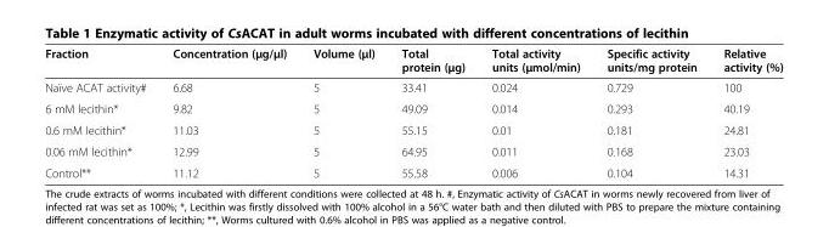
<table><thead><tr><td>Fraction</td><td>Concentration (μg/μl)</td><td>Volume (μl)</td><td>Total protein (μg)</td><td>Total activity units (μmol/min)</td><td>Specific activity units/mg protein</td><td>Relative activity (%)</td></tr></thead><tbody><tr><td>Naïve ACAT activity#</td><td>6.68</td><td>5</td><td>33.41</td><td>0.024</td><td>0.729</td><td>100</td></tr><tr><td>6 mM lecithin*</td><td>9.82</td><td>5</td><td>49.09</td><td>0.014</td><td>0.293</td><td>40.19</td></tr><tr><td>0.6 mM lecithin*</td><td>11.03</td><td>5</td><td>55.15</td><td>0.01</td><td>0.181</td><td>24.81</td></tr><tr><td>0.06 mM lecithin*</td><td>12.99</td><td>5</td><td>64.95</td><td>0.011</td><td>0.168</td><td>23.03</td></tr><tr><td>Control**</td><td>11.12</td><td>5</td><td>55.58</td><td>0.006</td><td>0.104</td><td>14.31</td></tr></tbody></table>